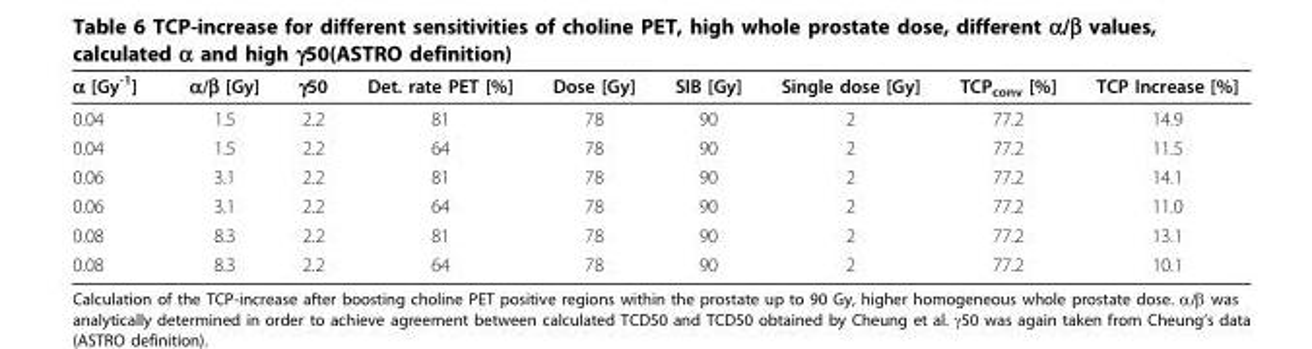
<table><thead><tr><td>α [Gy<sup>-1</sup>]</td><td>α/β [Gy]</td><td>γ50</td><td>Det. rate PET [%]</td><td>Dose [Gy]</td><td>SIB [Gy]</td><td>Single dose [Gy]</td><td>TCP<sub>conv</sub> [%]</td><td>TCP Increase [%]</td></tr></thead><tbody><tr><td>0.04</td><td>1.5</td><td>2.2</td><td>81</td><td>78</td><td>90</td><td>2</td><td>77.2</td><td>14.9</td></tr><tr><td>0.04</td><td>1.5</td><td>2.2</td><td>64</td><td>78</td><td>90</td><td>2</td><td>77.2</td><td>11.5</td></tr><tr><td>0.06</td><td>3.1</td><td>2.2</td><td>81</td><td>78</td><td>90</td><td>2</td><td>77.2</td><td>14.1</td></tr><tr><td>0.06</td><td>3.1</td><td>2.2</td><td>64</td><td>78</td><td>90</td><td>2</td><td>77.2</td><td>11.0</td></tr><tr><td>0.08</td><td>8.3</td><td>2.2</td><td>81</td><td>78</td><td>90</td><td>2</td><td>77.2</td><td>13.1</td></tr><tr><td>0.08</td><td>8.3</td><td>2.2</td><td>64</td><td>78</td><td>90</td><td>2</td><td>77.2</td><td>10.1</td></tr></tbody></table>